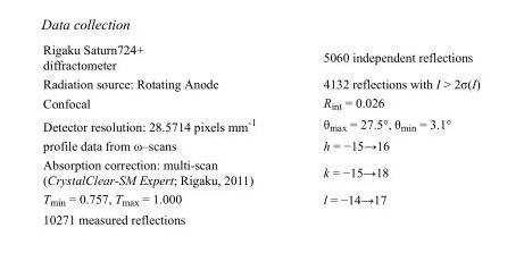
<table><tbody><tr><td>Rigaku Saturn724+ diffractometer</td><td>5060 independent reflections</td></tr><tr><td>Radiation source: Rotating Anode</td><td>4132 reflections with I &gt; 2σ(I)</td></tr><tr><td>Confocal</td><td>R<sub>int</sub> = 0.026</td></tr><tr><td>Detector resolution: 28.5714 pixels mm<sup>-1</sup></td><td>θ<sub>max</sub> = 27.5°, θ<sub>min</sub> = 3.1°</td></tr><tr><td>profile data from ω–scans</td><td>h = −15→16</td></tr><tr><td>Absorption correction: multi-scan (CrystalClear-SM Expert; Rigaku, 2011)</td><td>k = −15→18</td></tr><tr><td>T<sub>min</sub> = 0.757, T<sub>max</sub> = 1.000</td><td>l = −14→17</td></tr><tr><td>10271 measured reflections</td><td></td></tr></tbody></table>